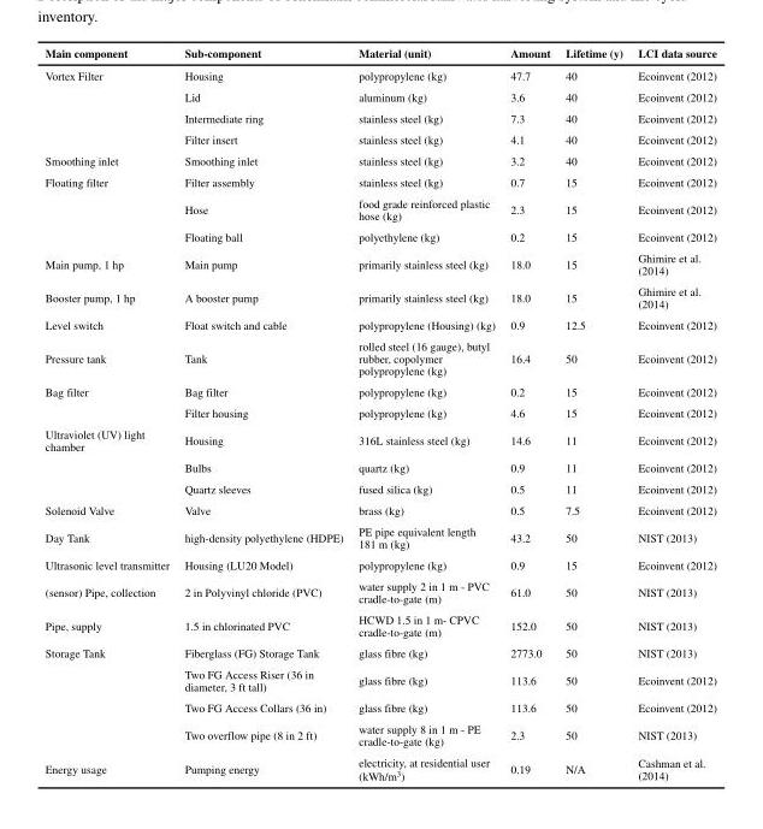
<table><thead><tr><td>Main component</td><td>Sub-component</td><td>Material (unit)</td><td>Amount</td><td>Lifetime (y)</td><td>LCI data source</td></tr></thead><tbody><tr><td rowspan="4">Vortex Filter</td><td>Housing</td><td>polypropylene (kg)</td><td>47.7</td><td>40</td><td>Ecoinvent (2012)</td></tr><tr><td>Lid</td><td>aluminum (kg)</td><td>3.6</td><td>40</td><td>Ecoinvent (2012)</td></tr><tr><td>Intermediate ring</td><td>stainless steel (kg)</td><td>7.3</td><td>40</td><td>Ecoinvent (2012)</td></tr><tr><td>Filter insert</td><td>stainless steel (kg)</td><td>4.1</td><td>40</td><td>Ecoinvent (2012)</td></tr><tr><td>Smoothing inlet</td><td>Smoothing inlet</td><td>stainless steel (kg)</td><td>3.2</td><td>40</td><td>Ecoinvent (2012)</td></tr><tr><td rowspan="3">Floating filter</td><td>Filter assembly</td><td>stainless steel (kg)</td><td>0.7</td><td>15</td><td>Ecoinvent (2012)</td></tr><tr><td>Hose</td><td>food grade reinforced plastic hose (kg)</td><td>2.3</td><td>15</td><td>Ecoinvent (2012)</td></tr><tr><td>Floating ball</td><td>polyethylene (kg)</td><td>0.2</td><td>15</td><td>Ecoinvent (2012)</td></tr><tr><td>Main pump, 1 hp</td><td>Main pump</td><td>primarily stainless steel (kg)</td><td>18.0</td><td>15</td><td>Ghimire et al. (2014)</td></tr><tr><td>Booster pump, 1 hp</td><td>A booster pump</td><td>primarily stainless steel (kg)</td><td>18.0</td><td>15</td><td>Ghimire et al. (2014)</td></tr><tr><td>Level switch</td><td>Float switch and cable</td><td>polypropylene (Housing) (kg)</td><td>0.9</td><td>12.5</td><td>Ecoinvent (2012)</td></tr><tr><td>Pressure tank</td><td>Tank</td><td>rolled steel (16 gauge), butyl rubber, copolymer polypropylene (kg)</td><td>16.4</td><td>50</td><td>Ecoinvent (2012)</td></tr><tr><td rowspan="2">Bag filter</td><td>Bag filter</td><td>polypropylene (kg)</td><td>0.2</td><td>15</td><td>Ecoinvent (2012)</td></tr><tr><td>Filter housing</td><td>polypropylene (kg)</td><td>4.6</td><td>15</td><td>Ecoinvent (2012)</td></tr><tr><td rowspan="3">Ultraviolet (UV) light chamber</td><td>Housing</td><td>316L stainless steel (kg)</td><td>14.6</td><td>11</td><td>Ecoinvent (2012)</td></tr><tr><td>Bulbs</td><td>quartz (kg)</td><td>0.9</td><td>11</td><td>Ecoinvent (2012)</td></tr><tr><td>Quartz sleeves</td><td>fused silica (kg)</td><td>0.5</td><td>11</td><td>Ecoinvent (2012)</td></tr><tr><td>Solenoid Valve</td><td>Valve</td><td>brass (kg)</td><td>0.5</td><td>7.5</td><td>Ecoinvent (2012)</td></tr><tr><td>Day Tank</td><td>high-density polyethylene (HDPE)</td><td>PE pipe equivalent length 181 m (kg)</td><td>43.2</td><td>50</td><td>NIST (2013)</td></tr><tr><td>Ultrasonic level transmitter</td><td>Housing (LU20 Model)</td><td>polypropylene (kg)</td><td>0.9</td><td>15</td><td>Ecoinvent (2012)</td></tr><tr><td>(sensor) Pipe, collection</td><td>2 in Polyvinyl chloride (PVC)</td><td>water supply 2 in 1 m - PVC cradle-to-gate (m)</td><td>61.0</td><td>50</td><td>NIST (2013)</td></tr><tr><td>Pipe, supply</td><td>1.5 in chlorinated PVC</td><td>HCWD 1.5 in 1 m- CPVC cradle-to-gate (m)</td><td>152.0</td><td>50</td><td>NIST (2013)</td></tr><tr><td rowspan="4">Storage Tank</td><td>Fiberglass (FG) Storage Tank</td><td>glass fibre (kg)</td><td>2773.0</td><td>50</td><td>NIST (2013)</td></tr><tr><td>Two FG Access Riser (36 in diameter, 3 ft tall)</td><td>glass fibre (kg)</td><td>113.6</td><td>50</td><td>Ecoinvent (2012)</td></tr><tr><td>Two FG Access Collars (36 in)</td><td>glass fibre (kg)</td><td>113.6</td><td>50</td><td>Ecoinvent (2012)</td></tr><tr><td>Two overflow pipe (8 in 2 ft)</td><td>water supply 8 in 1 m - PE cradle-to-gate (kg)</td><td>2.3</td><td>50</td><td>NIST (2013)</td></tr><tr><td>Energy usage</td><td>Pumping energy</td><td>electricity, at residential user (kWh/m<sup>3</sup>)</td><td>0.19</td><td>N/A</td><td>Cashman et al. (2014)</td></tr></tbody></table>